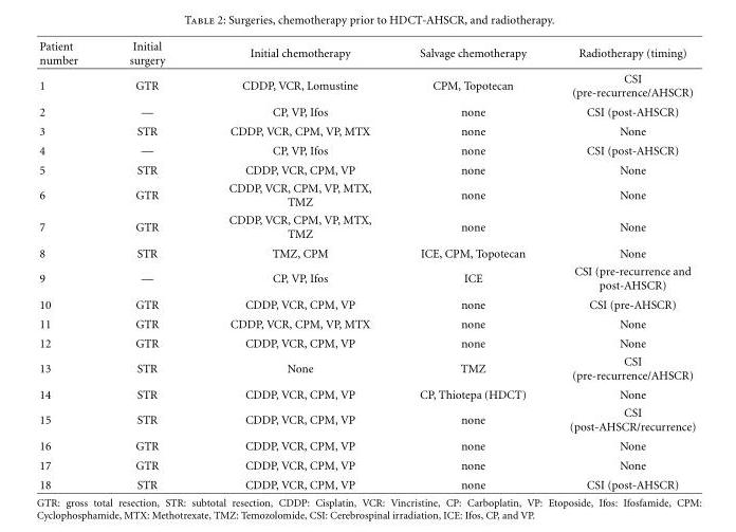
<table><thead><tr><td>Patient number</td><td>Initial surgery</td><td>Initial chemotherapy</td><td>Salvage chemotherapy</td><td>Radiotherapy (timing)</td></tr></thead><tbody><tr><td>1</td><td>GTR</td><td>CDDP, VCR, Lomustine</td><td>CPM, Topotecan</td><td>CSI (pre-recurrence/AHSCR)</td></tr><tr><td>2</td><td>—</td><td>CP, VP, Ifos</td><td>none</td><td>CSI (post-AHSCR)</td></tr><tr><td>3</td><td>STR</td><td>CDDP, VCR, CPM, VP, MTX</td><td>none</td><td>None</td></tr><tr><td>4</td><td>—</td><td>CP, VP, Ifos</td><td>none</td><td>CSI (post-AHSCR)</td></tr><tr><td>5</td><td>STR</td><td>CDDP, VCR, CPM, VP</td><td>none</td><td>None</td></tr><tr><td>6</td><td>GTR</td><td>CDDP, VCR, CPM, VP, MTX, TMZ</td><td>none</td><td>None</td></tr><tr><td>7</td><td>GTR</td><td>CDDP, VCR, CPM, VP, MTX, TMZ</td><td>none</td><td>None</td></tr><tr><td>8</td><td>STR</td><td>TMZ, CPM</td><td>ICE, CPM, Topotecan</td><td>None</td></tr><tr><td>9</td><td>—</td><td>CP, VP, Ifos</td><td>ICE</td><td>CSI (pre-recurrence and post-AHSCR)</td></tr><tr><td>10</td><td>GTR</td><td>CDDP, VCR, CPM, VP</td><td>none</td><td>CSI (pre-AHSCR)</td></tr><tr><td>11</td><td>GTR</td><td>CDDP, VCR, CPM, VP, MTX</td><td>none</td><td>None</td></tr><tr><td>12</td><td>GTR</td><td>CDDP, VCR, CPM, VP</td><td>none</td><td>None</td></tr><tr><td>13</td><td>STR</td><td>None</td><td>TMZ</td><td>CSI (pre-recurrence/AHSCR)</td></tr><tr><td>14</td><td>STR</td><td>CDDP, VCR, CPM, VP</td><td>CP, Thiotepa (HDCT)</td><td>None</td></tr><tr><td>15</td><td>STR</td><td>CDDP, VCR, CPM, VP</td><td>none</td><td>CSI (post-AHSCR/recurrence)</td></tr><tr><td>16</td><td>GTR</td><td>CDDP, VCR, CPM, VP</td><td>none</td><td>None</td></tr><tr><td>17</td><td>GTR</td><td>CDDP, VCR, CPM, VP</td><td>none</td><td>None</td></tr><tr><td>18</td><td>STR</td><td>CDDP, VCR, CPM, VP</td><td>none</td><td>CSI (post-AHSCR)</td></tr></tbody></table>